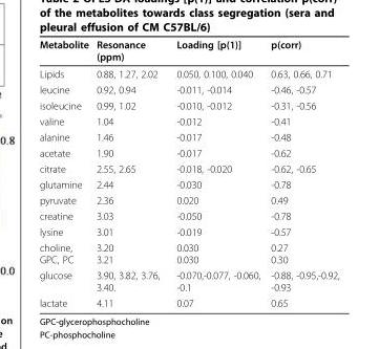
<table><thead><tr><td>Metabolite</td><td>Resonance (ppm)</td><td>Loading [p(1)]</td><td>p(corr)</td></tr></thead><tbody><tr><td>Lipids</td><td>0.88, 1.27, 2.02</td><td>0.050, 0.100, 0.040</td><td>0.63, 0.66, 0.71</td></tr><tr><td>leucine</td><td>0.92, 0.94</td><td>-0.011, -0.014</td><td>-0.46, -0.57</td></tr><tr><td>isoleucine</td><td>0.99, 1.02</td><td>-0.010, -0.012</td><td>-0.31, -0.56</td></tr><tr><td>valine</td><td>1.04</td><td>-0.012</td><td>-0.41</td></tr><tr><td>alanine</td><td>1.46</td><td>-0.017</td><td>-0.48</td></tr><tr><td>acetate</td><td>1.90</td><td>-0.017</td><td>-0.62</td></tr><tr><td>citrate</td><td>2.55, 2.65</td><td>-0.018, -0.020</td><td>-0.62, -0.65</td></tr><tr><td>glutamine</td><td>2.44</td><td>-0.030</td><td>-0.78</td></tr><tr><td>pyruvate</td><td>2.36</td><td>0.020</td><td>0.49</td></tr><tr><td>creatine</td><td>3.03</td><td>-0.050</td><td>-0.78</td></tr><tr><td>lysine</td><td>3.01</td><td>-0.019</td><td>-0.57</td></tr><tr><td>choline, GPC, PC</td><td>3.20 3.21</td><td>0.030 0.030</td><td>0.27 0.30</td></tr><tr><td>glucose</td><td>3.90, 3.82, 3.76, 3.40.</td><td>-0.070,-0.077, -0.060, -0.1</td><td>-0.88, -0.95,-0.92, -0.93</td></tr><tr><td>lactate</td><td>4.11</td><td>0.07</td><td>0.65</td></tr></tbody></table>